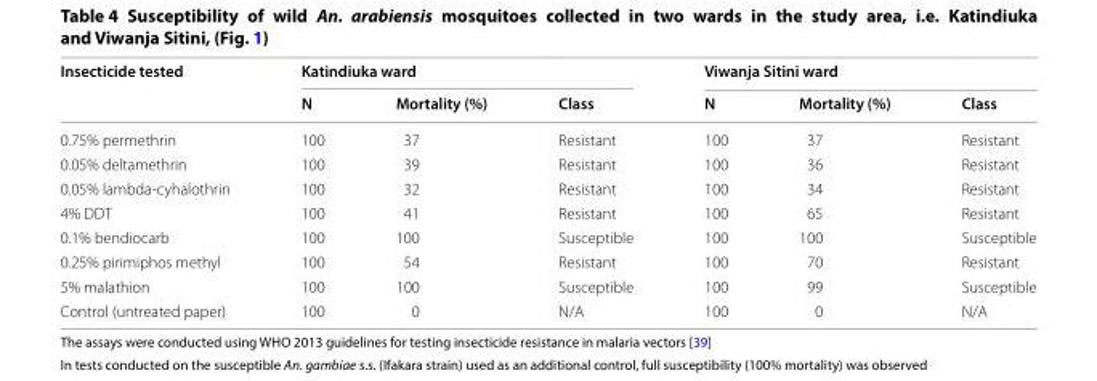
<table><thead><tr><td rowspan="2">Insecticide tested</td><td colspan="3">Katindiuka ward</td><td colspan="3">Viwanja Sitini ward</td></tr><tr><td>N</td><td>Mortality (%)</td><td>Class</td><td>N</td><td>Mortality (%)</td><td>Class</td></tr></thead><tbody><tr><td>0.75% permethrin</td><td>100</td><td>37</td><td>Resistant</td><td>100</td><td>37</td><td>Resistant</td></tr><tr><td>0.05% deltamethrin</td><td>100</td><td>39</td><td>Resistant</td><td>100</td><td>36</td><td>Resistant</td></tr><tr><td>0.05% lambda-cyhalothrin</td><td>100</td><td>32</td><td>Resistant</td><td>100</td><td>34</td><td>Resistant</td></tr><tr><td>4% DDT</td><td>100</td><td>41</td><td>Resistant</td><td>100</td><td>65</td><td>Resistant</td></tr><tr><td>0.1% bendiocarb</td><td>100</td><td>100</td><td>Susceptible</td><td>100</td><td>100</td><td>Susceptible</td></tr><tr><td>0.25% pirimiphos methyl</td><td>100</td><td>54</td><td>Resistant</td><td>100</td><td>70</td><td>Resistant</td></tr><tr><td>5% malathion</td><td>100</td><td>100</td><td>Susceptible</td><td>100</td><td>99</td><td>Susceptible</td></tr><tr><td>Control (untreated paper)</td><td>100</td><td>0</td><td>N/A</td><td>100</td><td>0</td><td>N/A</td></tr></tbody></table>